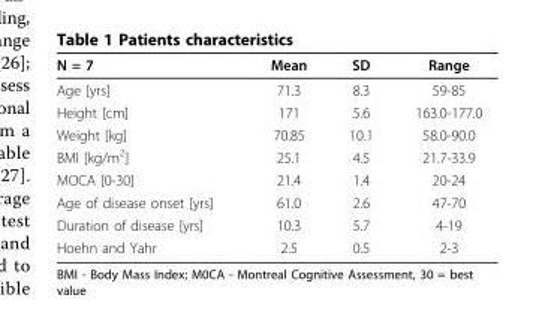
<table><thead><tr><td>N = 7</td><td>Mean</td><td>SD</td><td>Range</td></tr></thead><tbody><tr><td>Age [yrs]</td><td>71.3</td><td>8.3</td><td>59-85</td></tr><tr><td>Height [cm]</td><td>171</td><td>5.6</td><td>163.0-177.0</td></tr><tr><td>Weight [kg]</td><td>70.85</td><td>10.1</td><td>58.0-90.0</td></tr><tr><td>BMI [kg/m<sup>2</sup>]</td><td>25.1</td><td>4.5</td><td>21.7-33.9</td></tr><tr><td>MOCA [0-30]</td><td>21.4</td><td>1.4</td><td>20-24</td></tr><tr><td>Age of disease onset [yrs]</td><td>61.0</td><td>2.6</td><td>47-70</td></tr><tr><td>Duration of disease [yrs]</td><td>10.3</td><td>5.7</td><td>4-19</td></tr><tr><td>Hoehn and Yahr</td><td>2.5</td><td>0.5</td><td>2-3</td></tr></tbody></table>